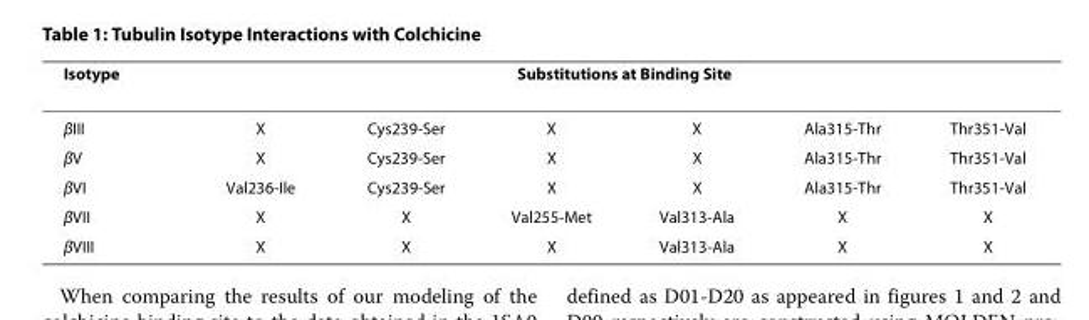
<table><thead><tr><td rowspan="2">Isotype βIII</td><td colspan="6">Substitutions at Binding Site</td></tr><tr><td>X</td><td>Cys239-Ser</td><td>X</td><td>X</td><td>Ala315-Thr</td><td>Thr351-Val</td></tr></thead><tbody><tr><td>βV</td><td>X</td><td>Cys239-Ser</td><td>X</td><td>X</td><td>Ala315-Thr</td><td>Thr351-Val</td></tr><tr><td>βVI</td><td>Val236-Ile</td><td>Cys239-Ser</td><td>X</td><td>X</td><td>Ala315-Thr</td><td>Thr351-Val</td></tr><tr><td>βVII</td><td>X</td><td>X</td><td>Val255-Met</td><td>Val313-Ala</td><td>X</td><td>X</td></tr><tr><td>βVIII</td><td>X</td><td>X</td><td>X</td><td>Val313-Ala</td><td>X</td><td>X</td></tr></tbody></table>